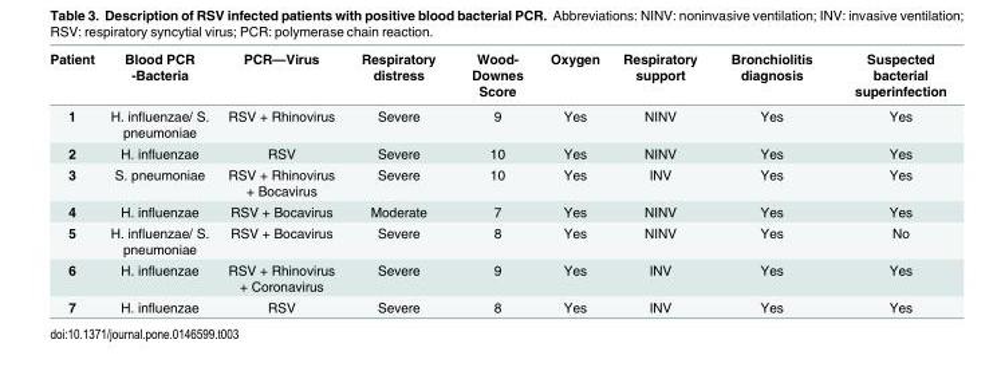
<table><thead><tr><td>Patient</td><td>Blood PCR -Bacteria</td><td>PCR—Virus</td><td>Respiratory distress</td><td>Wood- Downes Score</td><td>Oxygen</td><td>Respiratory support</td><td>Bronchiolitis diagnosis</td><td>Suspected bacterial superinfection</td></tr></thead><tbody><tr><td>1</td><td>H. influenzae/ S. pneumoniae</td><td>RSV + Rhinovirus</td><td>Severe</td><td>9</td><td>Yes</td><td>NINV</td><td>Yes</td><td>Yes</td></tr><tr><td>2</td><td>H. influenzae</td><td>RSV</td><td>Severe</td><td>10</td><td>Yes</td><td>NINV</td><td>Yes</td><td>Yes</td></tr><tr><td>3</td><td>S. pneumoniae</td><td>RSV + Rhinovirus + Bocavirus</td><td>Severe</td><td>10</td><td>Yes</td><td>INV</td><td>Yes</td><td>Yes</td></tr><tr><td>4</td><td>H. influenzae</td><td>RSV + Bocavirus</td><td>Moderate</td><td>7</td><td>Yes</td><td>NINV</td><td>Yes</td><td>Yes</td></tr><tr><td>5</td><td>H. influenzae/ S. pneumoniae</td><td>RSV + Bocavirus</td><td>Severe</td><td>8</td><td>Yes</td><td>NINV</td><td>Yes</td><td>No</td></tr><tr><td>6</td><td>H. influenzae</td><td>RSV + Rhinovirus + Coronavirus</td><td>Severe</td><td>9</td><td>Yes</td><td>INV</td><td>Yes</td><td>Yes</td></tr><tr><td>7</td><td>H. influenzae</td><td>RSV</td><td>Severe</td><td>8</td><td>Yes</td><td>INV</td><td>Yes</td><td>Yes</td></tr></tbody></table>